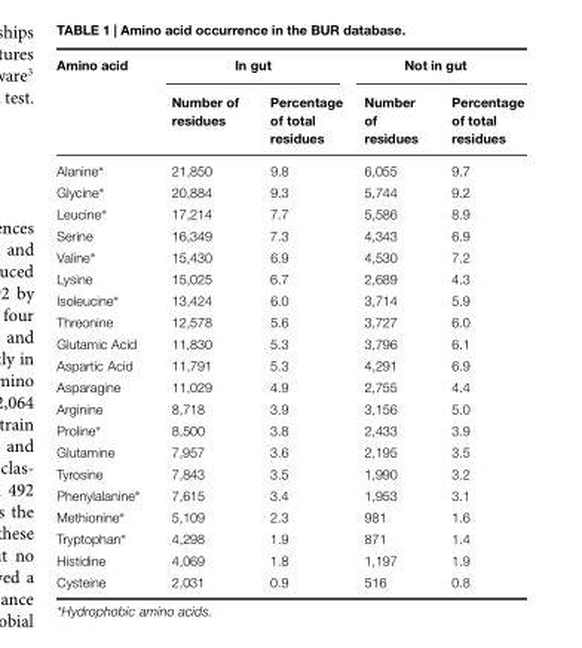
<table><thead><tr><td rowspan="2">Amino acid</td><td colspan="2">In gut</td><td colspan="2">Not in gut</td></tr><tr><td>Number of residues</td><td>Percentage of total residues</td><td>Number of residues</td><td>Percentage of total residues</td></tr></thead><tbody><tr><td>Alanine∗</td><td>21,850</td><td>9.8</td><td>6,055</td><td>9.7</td></tr><tr><td>Glycine∗</td><td>20,884</td><td>9.3</td><td>5,744</td><td>9.2</td></tr><tr><td>Leucine∗</td><td>17,214</td><td>7.7</td><td>5,586</td><td>8.9</td></tr><tr><td>Serine</td><td>16,349</td><td>7.3</td><td>4,343</td><td>6.9</td></tr><tr><td>Valine∗</td><td>15,430</td><td>6.9</td><td>4,530</td><td>7.2</td></tr><tr><td>Lysine</td><td>15,025</td><td>6.7</td><td>2,689</td><td>4.3</td></tr><tr><td>Isoleucine∗</td><td>13,424</td><td>6.0</td><td>3,714</td><td>5.9</td></tr><tr><td>Threonine</td><td>12,578</td><td>5.6</td><td>3,727</td><td>6.0</td></tr><tr><td>Glutamic Acid</td><td>11,830</td><td>5.3</td><td>3,796</td><td>6.1</td></tr><tr><td>Aspartic Acid</td><td>11,791</td><td>5.3</td><td>4,291</td><td>6.9</td></tr><tr><td>Asparagine</td><td>11,029</td><td>4.9</td><td>2,755</td><td>4.4</td></tr><tr><td>Arginine</td><td>8,718</td><td>3.9</td><td>3,156</td><td>5.0</td></tr><tr><td>Proline∗</td><td>8,500</td><td>3.8</td><td>2,433</td><td>3.9</td></tr><tr><td>Glutamine</td><td>7,957</td><td>3.6</td><td>2,195</td><td>3.5</td></tr><tr><td>Tyrosine</td><td>7,843</td><td>3.5</td><td>1,990</td><td>3.2</td></tr><tr><td>Phenylalanine∗</td><td>7,615</td><td>3.4</td><td>1,953</td><td>3.1</td></tr><tr><td>Methionine∗</td><td>5,109</td><td>2.3</td><td>981</td><td>1.6</td></tr><tr><td>Tryptophan∗</td><td>4,298</td><td>1.9</td><td>871</td><td>1.4</td></tr><tr><td>Histidine</td><td>4,069</td><td>1.8</td><td>1,197</td><td>1.9</td></tr><tr><td>Cysteine</td><td>2,031</td><td>0.9</td><td>516</td><td>0.8</td></tr></tbody></table>